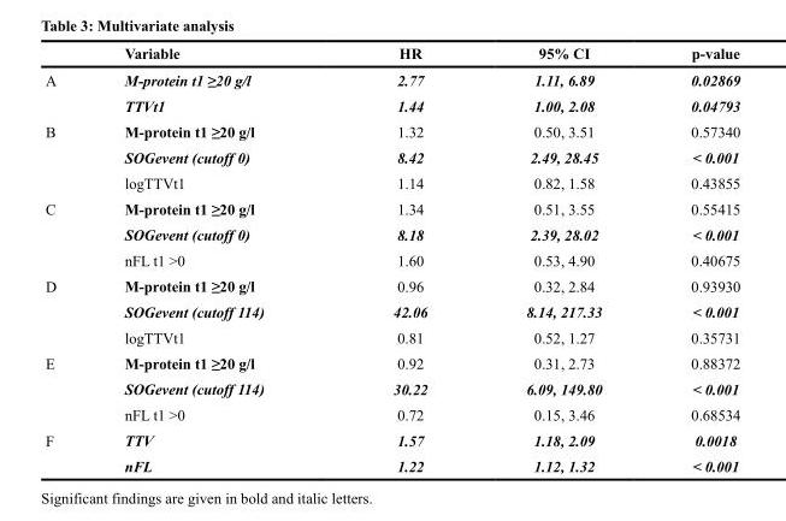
<table><thead><tr><td></td><td>Variable</td><td>HR</td><td>95% CI</td><td>p-value</td></tr></thead><tbody><tr><td rowspan="2">A</td><td>M-protein t1 ≥20 g/l</td><td>2.77</td><td>1.11, 6.89</td><td>0.02869</td></tr><tr><td>TTVt1</td><td>1.44</td><td>1.00, 2.08</td><td>0.04793</td></tr><tr><td rowspan="3">B</td><td>M-protein t1 ≥20 g/l</td><td>1.32</td><td>0.50, 3.51</td><td>0.57340</td></tr><tr><td>SOGevent (cutoff 0)</td><td>8.42</td><td>2.49, 28.45</td><td>&lt; 0.001</td></tr><tr><td>logTTVt1</td><td>1.14</td><td>0.82, 1.58</td><td>0.43855</td></tr><tr><td rowspan="3">C</td><td>M-protein t1 ≥20 g/l</td><td>1.34</td><td>0.51, 3.55</td><td>0.55415</td></tr><tr><td>SOGevent (cutoff 0)</td><td>8.18</td><td>2.39, 28.02</td><td>&lt; 0.001</td></tr><tr><td>nFL t1 &gt;0</td><td>1.60</td><td>0.53, 4.90</td><td>0.40675</td></tr><tr><td rowspan="3">D</td><td>M-protein t1 ≥20 g/l</td><td>0.96</td><td>0.32, 2.84</td><td>0.93930</td></tr><tr><td>SOGevent (cutoff 114)</td><td>42.06</td><td>8.14, 217.33</td><td>&lt; 0.001</td></tr><tr><td>logTTVt1</td><td>0.81</td><td>0.52, 1.27</td><td>0.35731</td></tr><tr><td rowspan="3">E</td><td>M-protein t1 ≥20 g/l</td><td>0.92</td><td>0.31, 2.73</td><td>0.88372</td></tr><tr><td>SOGevent (cutoff 114)</td><td>30.22</td><td>6.09, 149.80</td><td>&lt; 0.001</td></tr><tr><td>nFL t1 &gt;0</td><td>0.72</td><td>0.15, 3.46</td><td>0.68534</td></tr><tr><td rowspan="2">F</td><td>TTV</td><td>1.57</td><td>1.18, 2.09</td><td>0.0018</td></tr><tr><td>nFL</td><td>1.22</td><td>1.12, 1.32</td><td>&lt; 0.001</td></tr></tbody></table>